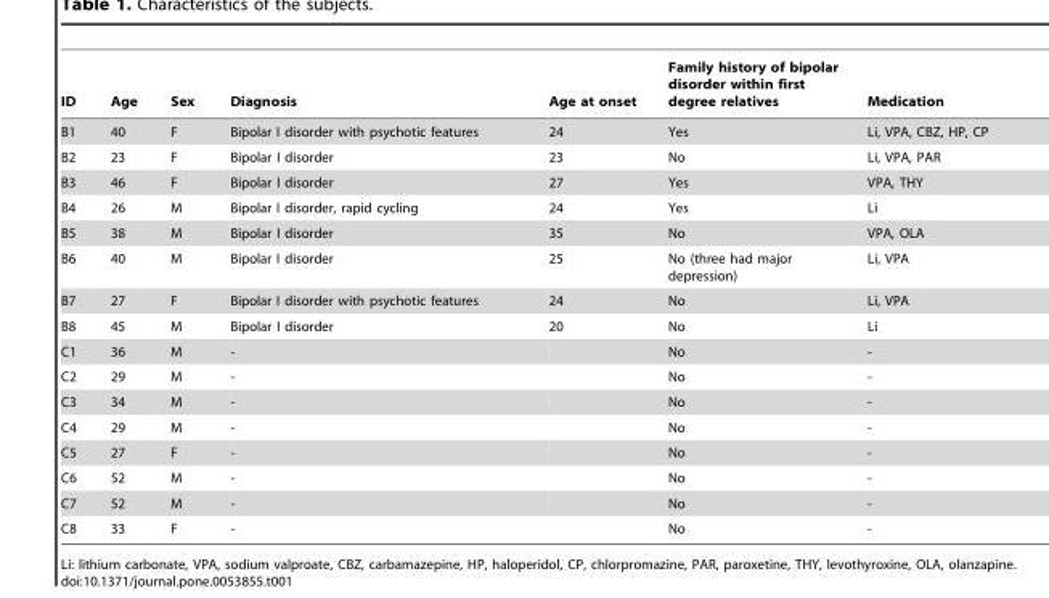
<table><thead><tr><td>ID</td><td>Age</td><td>Sex</td><td>Diagnosis</td><td>Age at onset</td><td>Family history of bipolar disorder within first degree relatives</td><td>Medication</td></tr></thead><tbody><tr><td>B1</td><td>40</td><td>F</td><td>Bipolar I disorder with psychotic features</td><td>24</td><td>Yes</td><td>Li, VPA, CBZ, HP, CP</td></tr><tr><td>B2</td><td>23</td><td>F</td><td>Bipolar I disorder</td><td>23</td><td>No</td><td>Li, VPA, PAR</td></tr><tr><td>B3</td><td>46</td><td>F</td><td>Bipolar I disorder</td><td>27</td><td>Yes</td><td>VPA, THY</td></tr><tr><td>B4</td><td>26</td><td>M</td><td>Bipolar I disorder, rapid cycling</td><td>24</td><td>Yes</td><td>Li</td></tr><tr><td>B5</td><td>38</td><td>M</td><td>Bipolar I disorder</td><td>35</td><td>No</td><td>VPA, OLA</td></tr><tr><td>B6</td><td>40</td><td>M</td><td>Bipolar I disorder</td><td>25</td><td>No (three had major depression)</td><td>Li, VPA</td></tr><tr><td>B7</td><td>27</td><td>F</td><td>Bipolar I disorder with psychotic features</td><td>24</td><td>No</td><td>Li, VPA</td></tr><tr><td>B8</td><td>45</td><td>M</td><td>Bipolar I disorder</td><td>20</td><td>No</td><td>Li</td></tr><tr><td>C1</td><td>36</td><td>M</td><td>-</td><td></td><td>No</td><td>-</td></tr><tr><td>C2</td><td>29</td><td>M</td><td>-</td><td></td><td>No</td><td>-</td></tr><tr><td>C3</td><td>34</td><td>M</td><td>-</td><td></td><td>No</td><td>-</td></tr><tr><td>C4</td><td>29</td><td>M</td><td>-</td><td></td><td>No</td><td>-</td></tr><tr><td>C5</td><td>27</td><td>F</td><td>-</td><td></td><td>No</td><td>-</td></tr><tr><td>C6</td><td>52</td><td>M</td><td>-</td><td></td><td>No</td><td>-</td></tr><tr><td>C7</td><td>52</td><td>M</td><td>-</td><td></td><td>No</td><td>-</td></tr><tr><td>C8</td><td>33</td><td>F</td><td>-</td><td></td><td>No</td><td>-</td></tr></tbody></table>